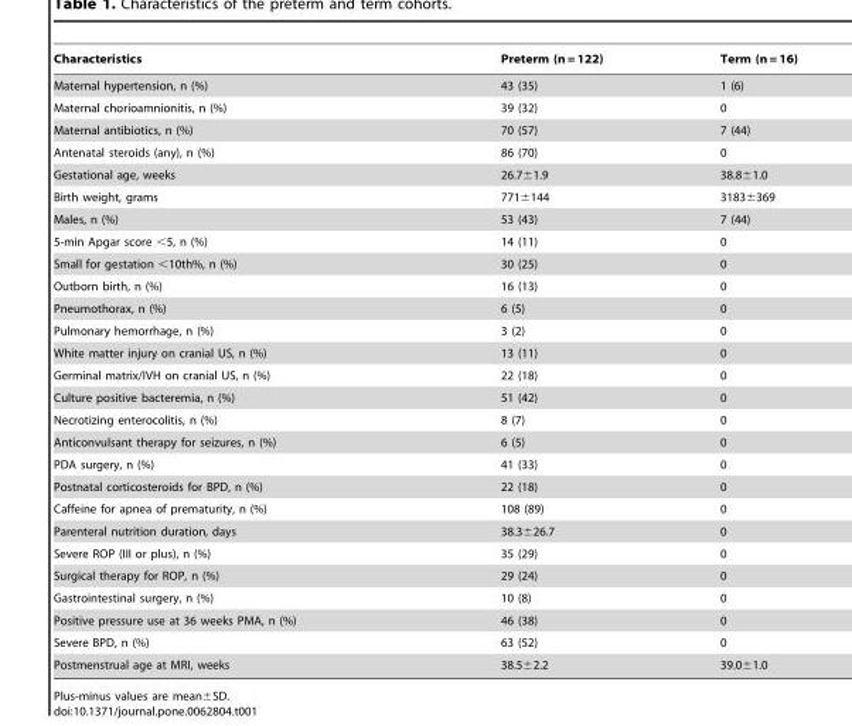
<table><thead><tr><td>Characteristics</td><td>Preterm (n = 122)</td><td>Term (n = 16)</td></tr></thead><tbody><tr><td>Maternal hypertension, n (%)</td><td>43 (35)</td><td>1 (6)</td></tr><tr><td>Maternal chorioamnionitis, n (%)</td><td>39 (32)</td><td>0</td></tr><tr><td>Maternal antibiotics, n (%)</td><td>70 (57)</td><td>7 (44)</td></tr><tr><td>Antenatal steroids (any), n (%)</td><td>86 (70)</td><td>0</td></tr><tr><td>Gestational age, weeks</td><td>26.7±1.9</td><td>38.8±1.0</td></tr><tr><td>Birth weight, grams</td><td>771±144</td><td>3183±369</td></tr><tr><td>Males, n (%)</td><td>53 (43)</td><td>7 (44)</td></tr><tr><td>5-min Apgar score &lt;5, n (%)</td><td>14 (11)</td><td>0</td></tr><tr><td>Small for gestation &lt;10th%, n (%)</td><td>30 (25)</td><td>0</td></tr><tr><td>Outborn birth, n (%)</td><td>16 (13)</td><td>0</td></tr><tr><td>Pneumothorax, n (%)</td><td>6 (5)</td><td>0</td></tr><tr><td>Pulmonary hemorrhage, n (%)</td><td>3 (2)</td><td>0</td></tr><tr><td>White matter injury on cranial US, n (%)</td><td>13 (11)</td><td>0</td></tr><tr><td>Germinal matrix/IVH on cranial US, n (%)</td><td>22 (18)</td><td>0</td></tr><tr><td>Culture positive bacteremia, n (%)</td><td>51 (42)</td><td>0</td></tr><tr><td>Necrotizing enterocolitis, n (%)</td><td>8 (7)</td><td>0</td></tr><tr><td>Anticonvulsant therapy for seizures, n (%)</td><td>6 (5)</td><td>0</td></tr><tr><td>PDA surgery, n (%)</td><td>41 (33)</td><td>0</td></tr><tr><td>Postnatal corticosteroids for BPD, n (%)</td><td>22 (18)</td><td>0</td></tr><tr><td>Caffeine for apnea of prematurity, n (%)</td><td>108 (89)</td><td>0</td></tr><tr><td>Parenteral nutrition duration, days</td><td>38.3±26.7</td><td>0</td></tr><tr><td>Severe ROP (III or plus), n (%)</td><td>35 (29)</td><td>0</td></tr><tr><td>Surgical therapy for ROP, n (%)</td><td>29 (24)</td><td>0</td></tr><tr><td>Gastrointestinal surgery, n (%)</td><td>10 (8)</td><td>0</td></tr><tr><td>Positive pressure use at 36 weeks PMA, n (%)</td><td>46 (38)</td><td>0</td></tr><tr><td>Severe BPD, n (%)</td><td>63 (52)</td><td>0</td></tr><tr><td>Postmenstrual age at MRI, weeks</td><td>38.5±2.2</td><td>39.0±1.0</td></tr></tbody></table>